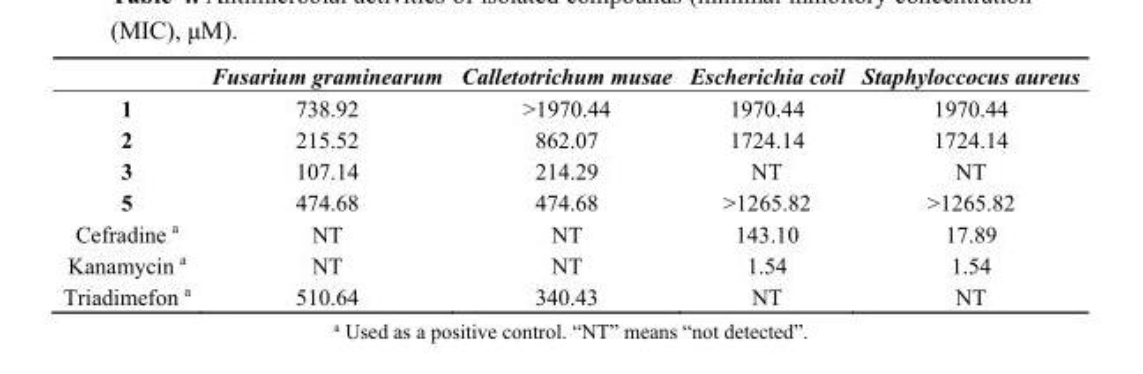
<table><thead><tr><td></td><td>Fusarium graminearum</td><td>Calletotrichum musae</td><td>Escherichia coil</td><td>Staphyloccocus aureus</td></tr></thead><tbody><tr><td>1</td><td>738.92</td><td>&gt;1970.44</td><td>1970.44</td><td>1970.44</td></tr><tr><td>2</td><td>215.52</td><td>862.07</td><td>1724.14</td><td>1724.14</td></tr><tr><td>3</td><td>107.14</td><td>214.29</td><td>NT</td><td>NT</td></tr><tr><td>5</td><td>474.68</td><td>474.68</td><td>&gt;1265.82</td><td>&gt;1265.82</td></tr><tr><td>Cefradine <sup>a</sup></td><td>NT</td><td>NT</td><td>143.10</td><td>17.89</td></tr><tr><td>Kanamycin <sup>a</sup></td><td>NT</td><td>NT</td><td>1.54</td><td>1.54</td></tr><tr><td>Triadimefon <sup>a</sup></td><td>510.64</td><td>340.43</td><td>NT</td><td>NT</td></tr></tbody></table>